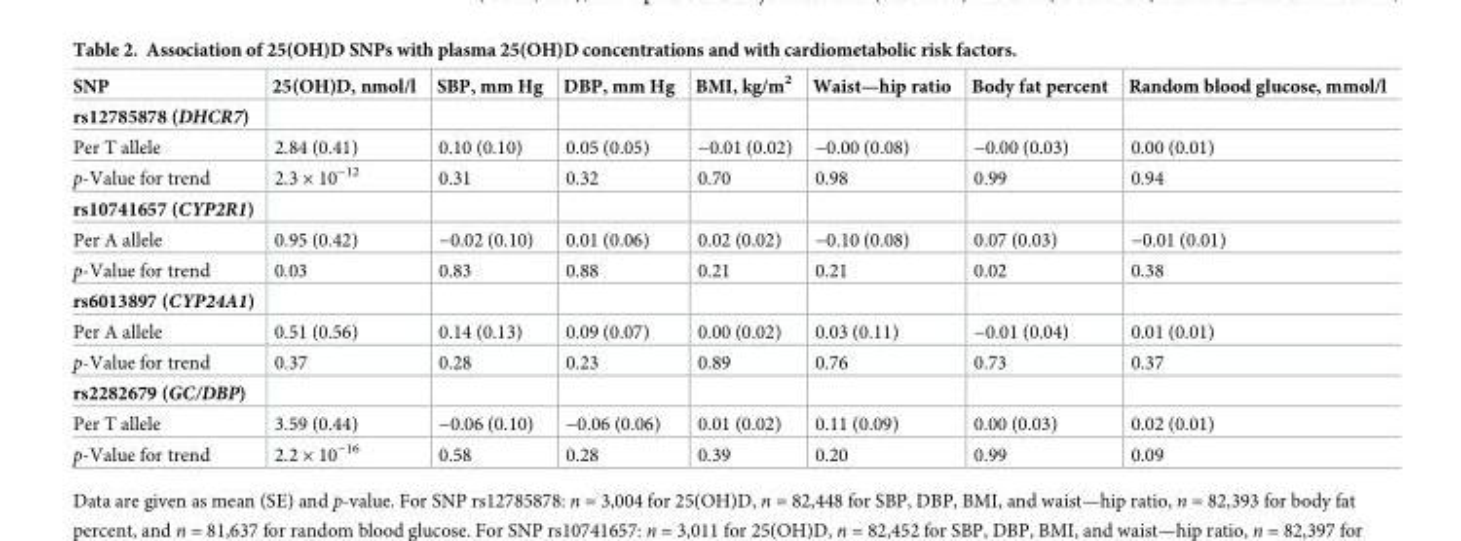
<table><thead><tr><td>SNP</td><td>25(OH)D, nmol/l</td><td>SBP, mm Hg</td><td>DBP, mm Hg</td><td>BMI, kg/m<sup>2</sup></td><td>Waist—hip ratio</td><td>Body fat percent</td><td>Random blood glucose, mmol/l</td></tr></thead><tbody><tr><td colspan="8">rs12785878 (DHCR7)</td></tr><tr><td>Per T allele</td><td>2.84 (0.41)</td><td>0.10 (0.10)</td><td>0.05 (0.05)</td><td>−0.01 (0.02)</td><td>−0.00 (0.08)</td><td>−0.00 (0.03)</td><td>0.00 (0.01)</td></tr><tr><td>p-Value for trend</td><td>2.3 × 10<sup>−12</sup></td><td>0.31</td><td>0.32</td><td>0.70</td><td>0.98</td><td>0.99</td><td>0.94</td></tr><tr><td colspan="8">rs10741657 (CYP2R1)</td></tr><tr><td>Per A allele</td><td>0.95 (0.42)</td><td>−0.02 (0.10)</td><td>0.01 (0.06)</td><td>0.02 (0.02)</td><td>−0.10 (0.08)</td><td>0.07 (0.03)</td><td>−0.01 (0.01)</td></tr><tr><td>p-Value for trend</td><td>0.03</td><td>0.83</td><td>0.88</td><td>0.21</td><td>0.21</td><td>0.02</td><td>0.38</td></tr><tr><td colspan="8">rs6013897 (CYP24A1)</td></tr><tr><td>Per A allele</td><td>0.51 (0.56)</td><td>0.14 (0.13)</td><td>0.09 (0.07)</td><td>0.00 (0.02)</td><td>0.03 (0.11)</td><td>−0.01 (0.04)</td><td>0.01 (0.01)</td></tr><tr><td>p-Value for trend</td><td>0.37</td><td>0.28</td><td>0.23</td><td>0.89</td><td>0.76</td><td>0.73</td><td>0.37</td></tr><tr><td colspan="8">rs2282679 (GC/DBP)</td></tr><tr><td>Per T allele</td><td>3.59 (0.44)</td><td>−0.06 (0.10)</td><td>−0.06 (0.06)</td><td>0.01 (0.02)</td><td>0.11 (0.09)</td><td>0.00 (0.03)</td><td>0.02 (0.01)</td></tr><tr><td>p-Value for trend</td><td>2.2 × 10<sup>−16</sup></td><td>0.58</td><td>0.28</td><td>0.39</td><td>0.20</td><td>0.99</td><td>0.09</td></tr></tbody></table>